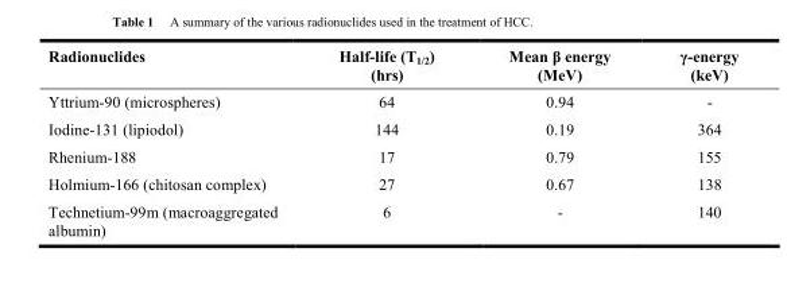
<table><thead><tr><td>Radionuclides</td><td>Half-life (T<sub>1/2</sub>) (hrs)</td><td>Mean β energy (MeV)</td><td>γ-energy (keV)</td></tr></thead><tbody><tr><td>Yttrium-90 (microspheres)</td><td>64</td><td>0.94</td><td>-</td></tr><tr><td>Iodine-131 (lipiodol)</td><td>144</td><td>0.19</td><td>364</td></tr><tr><td>Rhenium-188</td><td>17</td><td>0.79</td><td>155</td></tr><tr><td>Holmium-166 (chitosan complex)</td><td>27</td><td>0.67</td><td>138</td></tr><tr><td>Technetium-99m (macroaggregated albumin)</td><td>6</td><td>-</td><td>140</td></tr></tbody></table>